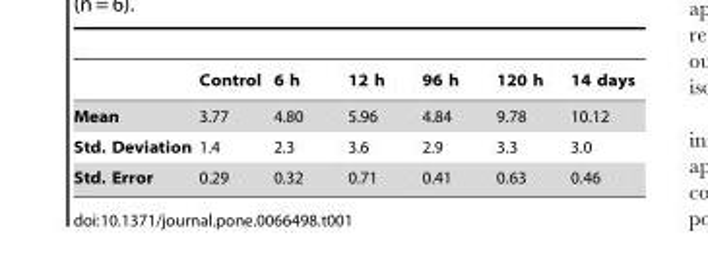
<table><thead><tr><td></td><td>Control</td><td>6 h</td><td>12 h</td><td>96 h</td><td>120 h</td><td>14 days</td></tr></thead><tbody><tr><td>Mean</td><td>3.77</td><td>4.80</td><td>5.96</td><td>4.84</td><td>9.78</td><td>10.12</td></tr><tr><td>Std. Deviation</td><td>1.4</td><td>2.3</td><td>3.6</td><td>2.9</td><td>3.3</td><td>3.0</td></tr><tr><td>Std. Error</td><td>0.29</td><td>0.32</td><td>0.71</td><td>0.41</td><td>0.63</td><td>0.46</td></tr></tbody></table>